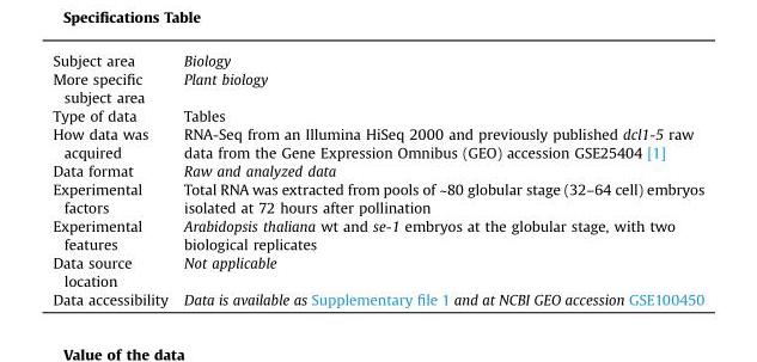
<table><tbody><tr><td>Subject area</td><td>Biology</td></tr><tr><td>More specific subject area</td><td>Plant biology</td></tr><tr><td>Type of data</td><td>Tables</td></tr><tr><td>How data was acquired</td><td>RNA-Seq from an Illumina HiSeq 2000 and previously published dcl1-5 raw data from the Gene Expression Omnibus (GEO) accession GSE25404 [1]</td></tr><tr><td>Data format</td><td>Raw and analyzed data</td></tr><tr><td>Experimental factors</td><td>Total RNA was extracted from pools of ~80 globular stage (32–64 cell) embryos isolated at 72 hours after pollination</td></tr><tr><td>Experimental features</td><td>Arabidopsis thaliana wt and se-1 embryos at the globular stage, with two biological replicates</td></tr><tr><td>Data source location</td><td>Not applicable</td></tr><tr><td>Data accessibility</td><td>Data is available as Supplementary file 1 and at NCBI GEO accession GSE100450</td></tr></tbody></table>